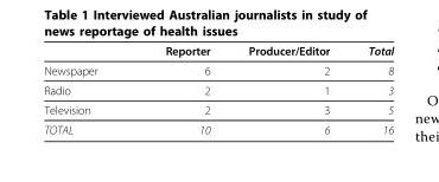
<table><thead><tr><td></td><td>Reporter</td><td>Producer/Editor</td><td>Total</td></tr></thead><tbody><tr><td>Newspaper</td><td>6</td><td>2</td><td>8</td></tr><tr><td>Radio</td><td>2</td><td>1</td><td>3</td></tr><tr><td>Television</td><td>2</td><td>3</td><td>5</td></tr><tr><td>TOTAL</td><td>10</td><td>6</td><td>16</td></tr></tbody></table>